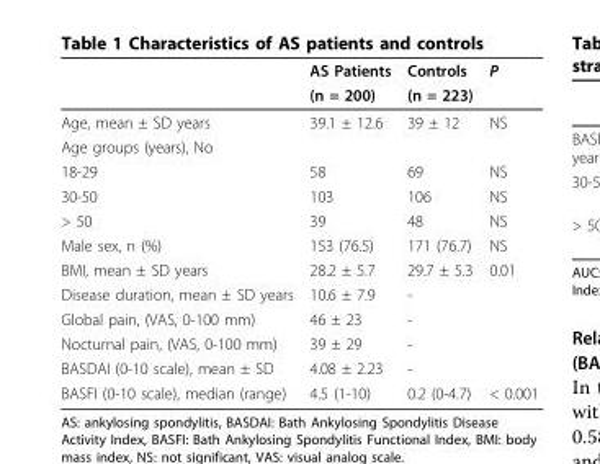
<table><thead><tr><td rowspan="2"></td><td rowspan="2">AS Patients (n = 200)</td><td rowspan="2">Controls (n = 223)</td><td rowspan="2">P</td></tr><tr></tr></thead><tbody><tr><td>Age, mean ± SD years</td><td>39.1 ± 12.6</td><td>39 ± 12</td><td>NS</td></tr><tr><td colspan="4">Age groups (years), No</td></tr><tr><td>18-29</td><td>58</td><td>69</td><td>NS</td></tr><tr><td>30-50</td><td>103</td><td>106</td><td>NS</td></tr><tr><td>&gt; 50</td><td>39</td><td>48</td><td>NS</td></tr><tr><td>Male sex, n (%)</td><td>153 (76.5)</td><td>171 (76.7)</td><td>NS</td></tr><tr><td>BMI, mean ± SD years</td><td>28.2 ± 5.7</td><td>29.7 ± 5.3</td><td>0.01</td></tr><tr><td>Disease duration, mean ± SD years</td><td>10.6 ± 7.9</td><td>-</td><td></td></tr><tr><td>Global pain, (VAS, 0-100 mm)</td><td>46 ± 23</td><td>-</td><td></td></tr><tr><td>Nocturnal pain, (VAS, 0-100 mm)</td><td>39 ± 29</td><td>-</td><td></td></tr><tr><td>BASDAI (0-10 scale), mean ± SD</td><td>4.08 ± 2.23</td><td>-</td><td></td></tr><tr><td>BASFI (0-10 scale), median (range)</td><td>4.5 (1-10)</td><td>0.2 (0-4.7)</td><td>&lt; 0.001</td></tr></tbody></table>